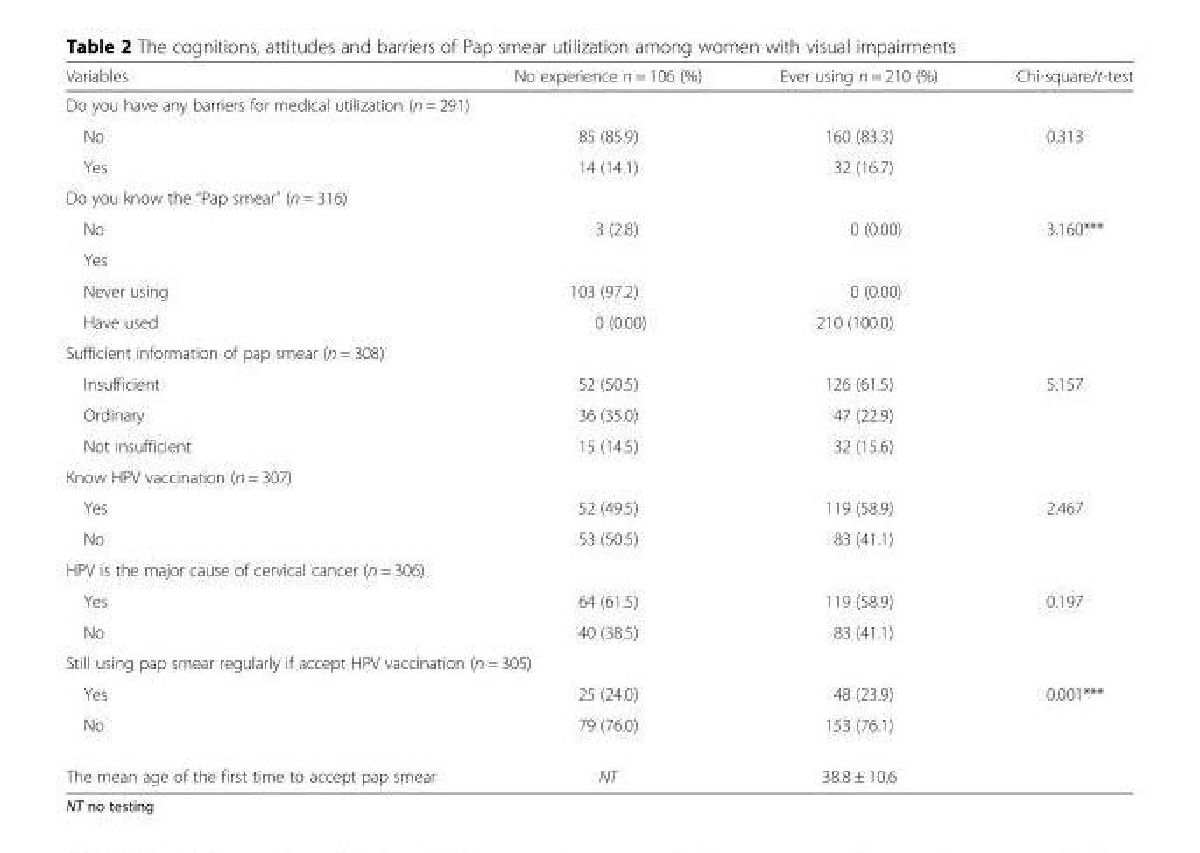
<table><thead><tr><td>Variables</td><td>No experience n = 106 (%)</td><td>Ever using n = 210 (%)</td><td>Chi-square/t-test</td></tr></thead><tbody><tr><td colspan="4">Do you have any barriers for medical utilization (n = 291)</td></tr><tr><td>No</td><td>85 (85.9)</td><td>160 (83.3)</td><td>0.313</td></tr><tr><td>Yes</td><td>14 (14.1)</td><td>32 (16.7)</td><td></td></tr><tr><td colspan="4">Do you know the “Pap smear” (n = 316)</td></tr><tr><td>No</td><td>3 (2.8)</td><td>0 (0.00)</td><td>3.160***</td></tr><tr><td colspan="4">Yes</td></tr><tr><td>Never using</td><td>103 (97.2)</td><td>0 (0.00)</td><td></td></tr><tr><td>Have used</td><td>0 (0.00)</td><td>210 (100.0)</td><td></td></tr><tr><td colspan="4">Sufficient information of pap smear (n = 308)</td></tr><tr><td>Insufficient</td><td>52 (50.5)</td><td>126 (61.5)</td><td>5.157</td></tr><tr><td>Ordinary</td><td>36 (35.0)</td><td>47 (22.9)</td><td></td></tr><tr><td>Not insufficient</td><td>15 (14.5)</td><td>32 (15.6)</td><td></td></tr><tr><td colspan="4">Know HPV vaccination (n = 307)</td></tr><tr><td>Yes</td><td>52 (49.5)</td><td>119 (58.9)</td><td>2.467</td></tr><tr><td>No</td><td>53 (50.5)</td><td>83 (41.1)</td><td></td></tr><tr><td colspan="4">HPV is the major cause of cervical cancer (n = 306)</td></tr><tr><td>Yes</td><td>64 (61.5)</td><td>119 (58.9)</td><td>0.197</td></tr><tr><td>No</td><td>40 (38.5)</td><td>83 (41.1)</td><td></td></tr><tr><td colspan="4">Still using pap smear regularly if accept HPV vaccination (n = 305)</td></tr><tr><td>Yes</td><td>25 (24.0)</td><td>48 (23.9)</td><td>0.001***</td></tr><tr><td>No</td><td>79 (76.0)</td><td>153 (76.1)</td><td></td></tr><tr><td>The mean age of the first time to accept pap smear</td><td>NT</td><td>38.8 ± 10.6</td><td></td></tr></tbody></table>